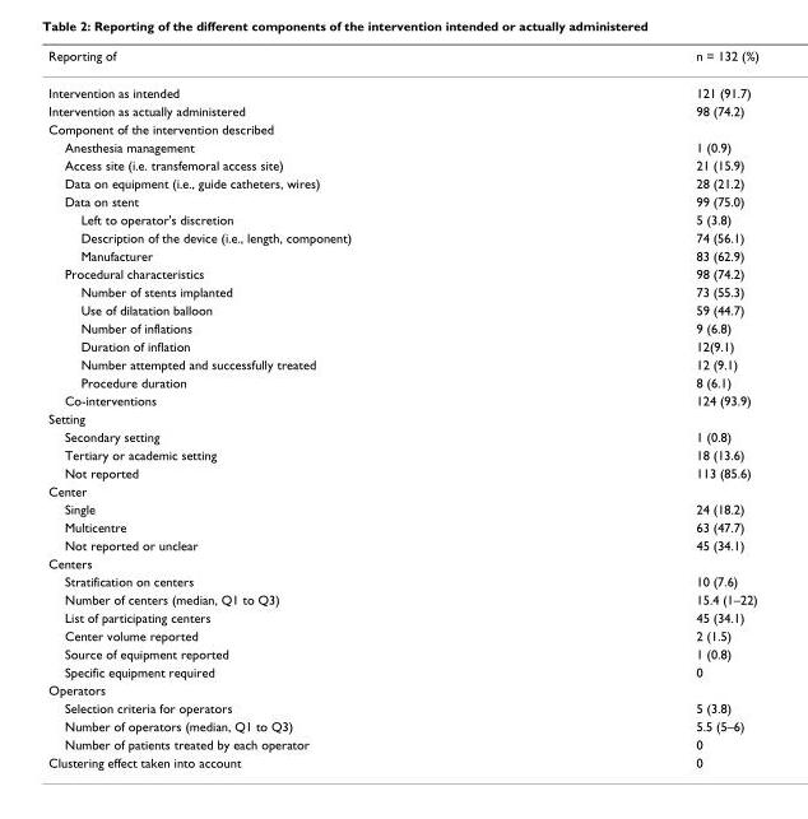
<table><thead><tr><td>Reporting of</td><td>n = 132 (%)</td></tr></thead><tbody><tr><td>Intervention as intended</td><td>121 (91.7)</td></tr><tr><td>Intervention as actually administered</td><td>98 (74.2)</td></tr><tr><td colspan="2">Component of the intervention described</td></tr><tr><td>Anesthesia management</td><td>1 (0.9)</td></tr><tr><td>Access site (i.e. transfemoral access site)</td><td>21 (15.9)</td></tr><tr><td>Data on equipment (i.e., guide catheters, wires)</td><td>28 (21.2)</td></tr><tr><td>Data on stent</td><td>99 (75.0)</td></tr><tr><td>Left to operator&#x27;s discretion</td><td>5 (3.8)</td></tr><tr><td>Description of the device (i.e., length, component)</td><td>74 (56.1)</td></tr><tr><td>Manufacturer</td><td>83 (62.9)</td></tr><tr><td>Procedural characteristics</td><td>98 (74.2)</td></tr><tr><td>Number of stents implanted</td><td>73 (55.3)</td></tr><tr><td>Use of dilatation balloon</td><td>59 (44.7)</td></tr><tr><td>Number of inflations</td><td>9 (6.8)</td></tr><tr><td>Duration of inflation</td><td>12(9.1)</td></tr><tr><td>Number attempted and successfully treated</td><td>12 (9.1)</td></tr><tr><td>Procedure duration</td><td>8 (6.1)</td></tr><tr><td>Co-interventions</td><td>124 (93.9)</td></tr><tr><td colspan="2">Setting</td></tr><tr><td>Secondary setting</td><td>1 (0.8)</td></tr><tr><td>Tertiary or academic setting</td><td>18 (13.6)</td></tr><tr><td>Not reported</td><td>113 (85.6)</td></tr><tr><td colspan="2">Center</td></tr><tr><td>Single</td><td>24 (18.2)</td></tr><tr><td>Multicentre</td><td>63 (47.7)</td></tr><tr><td>Not reported or unclear</td><td>45 (34.1)</td></tr><tr><td colspan="2">Centers</td></tr><tr><td>Stratification on centers</td><td>10 (7.6)</td></tr><tr><td>Number of centers (median, Q1 to Q3)</td><td>15.4 (1–22)</td></tr><tr><td>List of participating centers</td><td>45 (34.1)</td></tr><tr><td>Center volume reported</td><td>2 (1.5)</td></tr><tr><td>Source of equipment reported</td><td>1 (0.8)</td></tr><tr><td>Specific equipment required</td><td>0</td></tr><tr><td colspan="2">Operators</td></tr><tr><td>Selection criteria for operators</td><td>5 (3.8)</td></tr><tr><td>Number of operators (median, Q1 to Q3)</td><td>5.5 (5–6)</td></tr><tr><td>Number of patients treated by each operator</td><td>0</td></tr><tr><td>Clustering effect taken into account</td><td>0</td></tr></tbody></table>